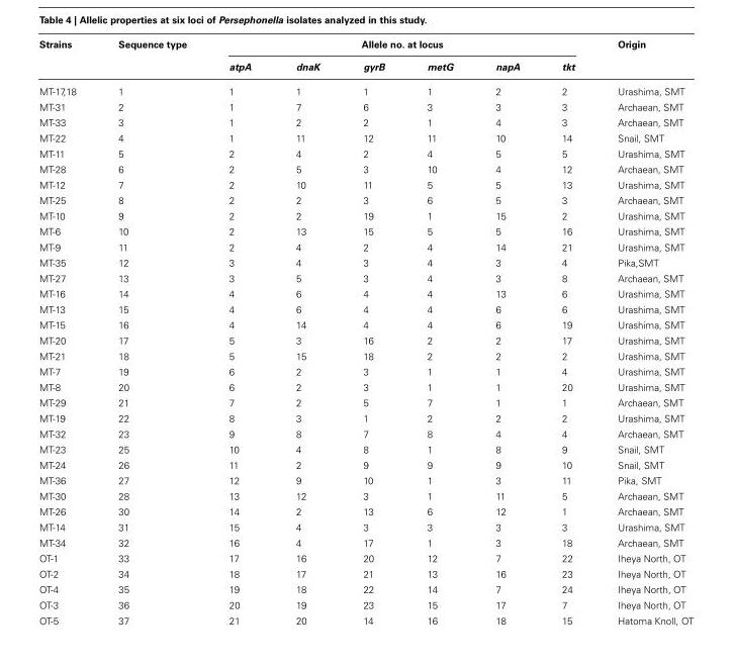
<table><thead><tr><td rowspan="2">Strains</td><td rowspan="2">Sequence type</td><td colspan="6">Allele no. at locus</td><td rowspan="2">Origin</td></tr><tr><td>atpA</td><td>dnaK</td><td>gyrB</td><td>metG</td><td>napA</td><td>tkt</td></tr></thead><tbody><tr><td>MT-17,18</td><td>1</td><td>1</td><td>1</td><td>1</td><td>1</td><td>2</td><td>2</td><td>Urashima, SMT</td></tr><tr><td>MT-31</td><td>2</td><td>1</td><td>7</td><td>6</td><td>3</td><td>3</td><td>3</td><td>Archaean, SMT</td></tr><tr><td>MT-33</td><td>3</td><td>1</td><td>2</td><td>2</td><td>1</td><td>4</td><td>3</td><td>Archaean, SMT</td></tr><tr><td>MT-22</td><td>4</td><td>1</td><td>11</td><td>12</td><td>11</td><td>10</td><td>14</td><td>Snail, SMT</td></tr><tr><td>MT-11</td><td>5</td><td>2</td><td>4</td><td>2</td><td>4</td><td>5</td><td>5</td><td>Urashima, SMT</td></tr><tr><td>MT-28</td><td>6</td><td>2</td><td>5</td><td>3</td><td>10</td><td>4</td><td>12</td><td>Archaean, SMT</td></tr><tr><td>MT-12</td><td>7</td><td>2</td><td>10</td><td>11</td><td>5</td><td>5</td><td>13</td><td>Urashima, SMT</td></tr><tr><td>MT-25</td><td>8</td><td>2</td><td>2</td><td>3</td><td>6</td><td>5</td><td>3</td><td>Archaean, SMT</td></tr><tr><td>MT-10</td><td>9</td><td>2</td><td>2</td><td>19</td><td>1</td><td>15</td><td>2</td><td>Urashima, SMT</td></tr><tr><td>MT-6</td><td>10</td><td>2</td><td>13</td><td>15</td><td>5</td><td>5</td><td>16</td><td>Urashima, SMT</td></tr><tr><td>MT-9</td><td>11</td><td>2</td><td>4</td><td>2</td><td>4</td><td>14</td><td>21</td><td>Urashima, SMT</td></tr><tr><td>MT-35</td><td>12</td><td>3</td><td>4</td><td>3</td><td>4</td><td>3</td><td>4</td><td>Pika,SMT</td></tr><tr><td>MT-27</td><td>13</td><td>3</td><td>5</td><td>3</td><td>4</td><td>3</td><td>8</td><td>Archaean, SMT</td></tr><tr><td>MT-16</td><td>14</td><td>4</td><td>6</td><td>4</td><td>4</td><td>13</td><td>6</td><td>Urashima, SMT</td></tr><tr><td>MT-13</td><td>15</td><td>4</td><td>6</td><td>4</td><td>4</td><td>6</td><td>6</td><td>Urashima, SMT</td></tr><tr><td>MT-15</td><td>16</td><td>4</td><td>14</td><td>4</td><td>4</td><td>6</td><td>19</td><td>Urashima, SMT</td></tr><tr><td>MT-20</td><td>17</td><td>5</td><td>3</td><td>16</td><td>2</td><td>2</td><td>17</td><td>Urashima, SMT</td></tr><tr><td>MT-21</td><td>18</td><td>5</td><td>15</td><td>18</td><td>2</td><td>2</td><td>2</td><td>Urashima, SMT</td></tr><tr><td>MT-7</td><td>19</td><td>6</td><td>2</td><td>3</td><td>1</td><td>1</td><td>4</td><td>Urashima, SMT</td></tr><tr><td>MT-8</td><td>20</td><td>6</td><td>2</td><td>3</td><td>1</td><td>1</td><td>20</td><td>Urashima, SMT</td></tr><tr><td>MT-29</td><td>21</td><td>7</td><td>2</td><td>5</td><td>7</td><td>1</td><td>1</td><td>Archaean, SMT</td></tr><tr><td>MT-19</td><td>22</td><td>8</td><td>3</td><td>1</td><td>2</td><td>2</td><td>2</td><td>Urashima, SMT</td></tr><tr><td>MT-32</td><td>23</td><td>9</td><td>8</td><td>7</td><td>8</td><td>4</td><td>4</td><td>Archaean, SMT</td></tr><tr><td>MT-23</td><td>25</td><td>10</td><td>4</td><td>8</td><td>1</td><td>8</td><td>9</td><td>Snail, SMT</td></tr><tr><td>MT-24</td><td>26</td><td>11</td><td>2</td><td>9</td><td>9</td><td>9</td><td>10</td><td>Snail, SMT</td></tr><tr><td>MT-36</td><td>27</td><td>12</td><td>9</td><td>10</td><td>1</td><td>3</td><td>11</td><td>Pika, SMT</td></tr><tr><td>MT-30</td><td>28</td><td>13</td><td>12</td><td>3</td><td>1</td><td>11</td><td>5</td><td>Archaean, SMT</td></tr><tr><td>MT-26</td><td>30</td><td>14</td><td>2</td><td>13</td><td>6</td><td>12</td><td>1</td><td>Archaean, SMT</td></tr><tr><td>MT-14</td><td>31</td><td>15</td><td>4</td><td>3</td><td>3</td><td>3</td><td>3</td><td>Urashima, SMT</td></tr><tr><td>MT-34</td><td>32</td><td>16</td><td>4</td><td>17</td><td>1</td><td>3</td><td>18</td><td>Archaean, SMT</td></tr><tr><td>OT-1</td><td>33</td><td>17</td><td>16</td><td>20</td><td>12</td><td>7</td><td>22</td><td>Iheya North, OT</td></tr><tr><td>OT-2</td><td>34</td><td>18</td><td>17</td><td>21</td><td>13</td><td>16</td><td>23</td><td>Iheya North, OT</td></tr><tr><td>OT-4</td><td>35</td><td>19</td><td>18</td><td>22</td><td>14</td><td>7</td><td>24</td><td>Iheya North, OT</td></tr><tr><td>OT-3</td><td>36</td><td>20</td><td>19</td><td>23</td><td>15</td><td>17</td><td>7</td><td>Iheya North, OT</td></tr><tr><td>OT-5</td><td>37</td><td>21</td><td>20</td><td>14</td><td>16</td><td>18</td><td>15</td><td>Hatoma Knoll, OT</td></tr></tbody></table>